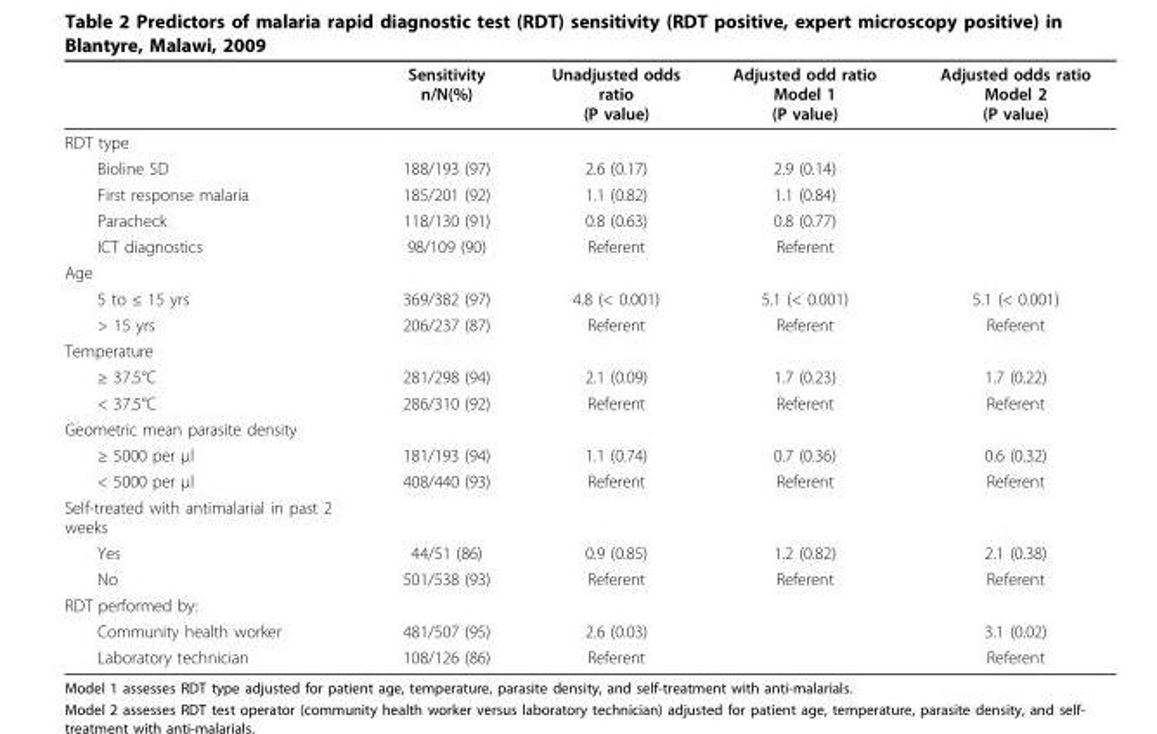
<table><thead><tr><td></td><td>Sensitivity n/N(%)</td><td>Unadjusted odds ratio (P value)</td><td>Adjusted odd ratio Model 1 (P value)</td><td>Adjusted odds ratio Model 2 (P value)</td></tr></thead><tbody><tr><td colspan="5">RDT type</td></tr><tr><td>Bioline SD</td><td>188/193 (97)</td><td>2.6 (0.17)</td><td>2.9 (0.14)</td><td></td></tr><tr><td>First response malaria</td><td>185/201 (92)</td><td>1.1 (0.82)</td><td>1.1 (0.84)</td><td></td></tr><tr><td>Paracheck</td><td>118/130 (91)</td><td>0.8 (0.63)</td><td>0.8 (0.77)</td><td></td></tr><tr><td>ICT diagnostics</td><td>98/109 (90)</td><td>Referent</td><td>Referent</td><td></td></tr><tr><td colspan="5">Age</td></tr><tr><td>5 to ≤ 15 yrs</td><td>369/382 (97)</td><td>4.8 (&lt; 0.001)</td><td>5.1 (&lt; 0.001)</td><td>5.1 (&lt; 0.001)</td></tr><tr><td>&gt; 15 yrs</td><td>206/237 (87)</td><td>Referent</td><td>Referent</td><td>Referent</td></tr><tr><td colspan="5">Temperature</td></tr><tr><td>≥ 37.5°C</td><td>281/298 (94)</td><td>2.1 (0.09)</td><td>1.7 (0.23)</td><td>1.7 (0.22)</td></tr><tr><td>&lt; 37.5°C</td><td>286/310 (92)</td><td>Referent</td><td>Referent</td><td>Referent</td></tr><tr><td colspan="5">Geometric mean parasite density</td></tr><tr><td>≥ 5000 per μl</td><td>181/193 (94)</td><td>1.1 (0.74)</td><td>0.7 (0.36)</td><td>0.6 (0.32)</td></tr><tr><td>&lt; 5000 per μl</td><td>408/440 (93)</td><td>Referent</td><td>Referent</td><td>Referent</td></tr><tr><td colspan="5">Self-treated with antimalarial in past 2 weeks</td></tr><tr><td>Yes</td><td>44/51 (86)</td><td>0.9 (0.85)</td><td>1.2 (0.82)</td><td>2.1 (0.38)</td></tr><tr><td>No</td><td>501/538 (93)</td><td>Referent</td><td>Referent</td><td>Referent</td></tr><tr><td colspan="5">RDT performed by:</td></tr><tr><td>Community health worker</td><td>481/507 (95)</td><td>2.6 (0.03)</td><td></td><td>3.1 (0.02)</td></tr><tr><td>Laboratory technician</td><td>108/126 (86)</td><td>Referent</td><td></td><td>Referent</td></tr></tbody></table>